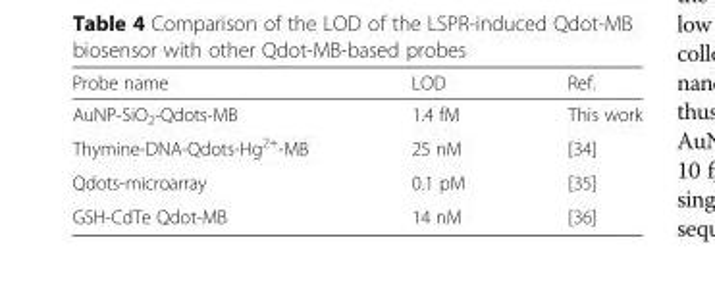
<table><thead><tr><td>Probe name</td><td>LOD</td><td>Ref.</td></tr></thead><tbody><tr><td>AuNP-SiO<sub>2</sub>-Qdots-MB</td><td>1.4 fM</td><td>This work</td></tr><tr><td>Thymine-DNA-Qdots-Hg<sup>2+</sup>-MB</td><td>25 nM</td><td>[34]</td></tr><tr><td>Qdots-microarray</td><td>0.1 pM</td><td>[35]</td></tr><tr><td>GSH-CdTe Qdot-MB</td><td>14 nM</td><td>[36]</td></tr></tbody></table>